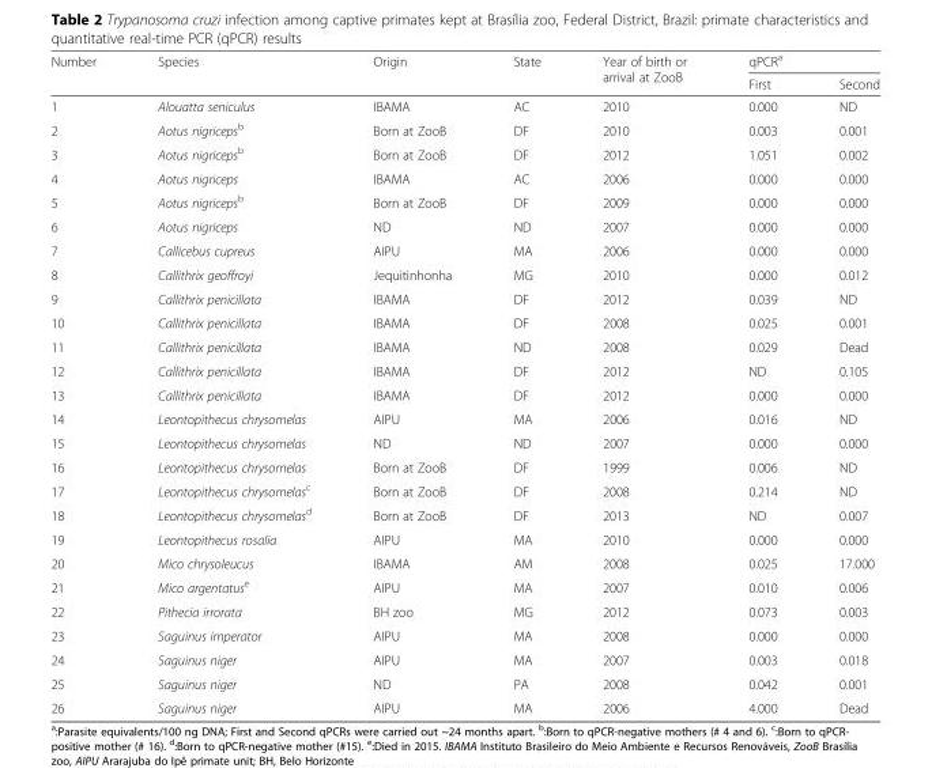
<table><thead><tr><td rowspan="2">Number</td><td rowspan="2">Species</td><td rowspan="2">Origin</td><td rowspan="2">State</td><td rowspan="2">Year of birth or arrival at ZooB</td><td colspan="2">qPCR<sup>a</sup></td></tr><tr><td>First</td><td>Second</td></tr></thead><tbody><tr><td>1</td><td>Alouatta seniculus</td><td>IBAMA</td><td>AC</td><td>2010</td><td>0.000</td><td>ND</td></tr><tr><td>2</td><td>Aotus nigriceps<sup>b</sup></td><td>Born at ZooB</td><td>DF</td><td>2010</td><td>0.003</td><td>0.001</td></tr><tr><td>3</td><td>Aotus nigriceps<sup>b</sup></td><td>Born at ZooB</td><td>DF</td><td>2012</td><td>1.051</td><td>0.002</td></tr><tr><td>4</td><td>Aotus nigriceps</td><td>IBAMA</td><td>AC</td><td>2006</td><td>0.000</td><td>0.000</td></tr><tr><td>5</td><td>Aotus nigriceps<sup>b</sup></td><td>Born at ZooB</td><td>DF</td><td>2009</td><td>0.000</td><td>0.000</td></tr><tr><td>6</td><td>Aotus nigriceps</td><td>ND</td><td>ND</td><td>2007</td><td>0.000</td><td>0.000</td></tr><tr><td>7</td><td>Callicebus cupreus</td><td>AIPU</td><td>MA</td><td>2006</td><td>0.000</td><td>0.000</td></tr><tr><td>8</td><td>Callithrix geoffroyi</td><td>Jequitinhonha</td><td>MG</td><td>2010</td><td>0.000</td><td>0.012</td></tr><tr><td>9</td><td>Callithrix penicillata</td><td>IBAMA</td><td>DF</td><td>2012</td><td>0.039</td><td>ND</td></tr><tr><td>10</td><td>Callithrix penicillata</td><td>IBAMA</td><td>DF</td><td>2008</td><td>0.025</td><td>0.001</td></tr><tr><td>11</td><td>Callithrix penicillata</td><td>IBAMA</td><td>ND</td><td>2008</td><td>0.029</td><td>Dead</td></tr><tr><td>12</td><td>Callithrix penicillata</td><td>IBAMA</td><td>DF</td><td>2012</td><td>ND</td><td>0.105</td></tr><tr><td>13</td><td>Callithrix penicillata</td><td>IBAMA</td><td>DF</td><td>2012</td><td>0.000</td><td>0.000</td></tr><tr><td>14</td><td>Leontopithecus chrysomelas</td><td>AIPU</td><td>MA</td><td>2006</td><td>0.016</td><td>ND</td></tr><tr><td>15</td><td>Leontopithecus chrysomelas</td><td>ND</td><td>ND</td><td>2007</td><td>0.000</td><td>0.000</td></tr><tr><td>16</td><td>Leontopithecus chrysomelas</td><td>Born at ZooB</td><td>DF</td><td>1999</td><td>0.006</td><td>ND</td></tr><tr><td>17</td><td>Leontopithecus chrysomelas<sup>c</sup></td><td>Born at ZooB</td><td>DF</td><td>2008</td><td>0.214</td><td>ND</td></tr><tr><td>18</td><td>Leontopithecus chrysomelas<sup>d</sup></td><td>Born at ZooB</td><td>DF</td><td>2013</td><td>ND</td><td>0.007</td></tr><tr><td>19</td><td>Leontopithecus rosalia</td><td>AIPU</td><td>MA</td><td>2010</td><td>0.000</td><td>0.000</td></tr><tr><td>20</td><td>Mico chrysoleucus</td><td>IBAMA</td><td>AM</td><td>2008</td><td>0.025</td><td>17.000</td></tr><tr><td>21</td><td>Mico argentatus<sup>e</sup></td><td>AIPU</td><td>MA</td><td>2007</td><td>0.010</td><td>0.006</td></tr><tr><td>22</td><td>Pithecia irrorata</td><td>BH zoo</td><td>MG</td><td>2012</td><td>0.073</td><td>0.003</td></tr><tr><td>23</td><td>Saguinus imperator</td><td>AIPU</td><td>MA</td><td>2008</td><td>0.000</td><td>0.000</td></tr><tr><td>24</td><td>Saguinus niger</td><td>AIPU</td><td>MA</td><td>2007</td><td>0.003</td><td>0.018</td></tr><tr><td>25</td><td>Saguinus niger</td><td>ND</td><td>PA</td><td>2008</td><td>0.042</td><td>0.001</td></tr><tr><td>26</td><td>Saguinus niger</td><td>AIPU</td><td>MA</td><td>2006</td><td>4.000</td><td>Dead</td></tr></tbody></table>